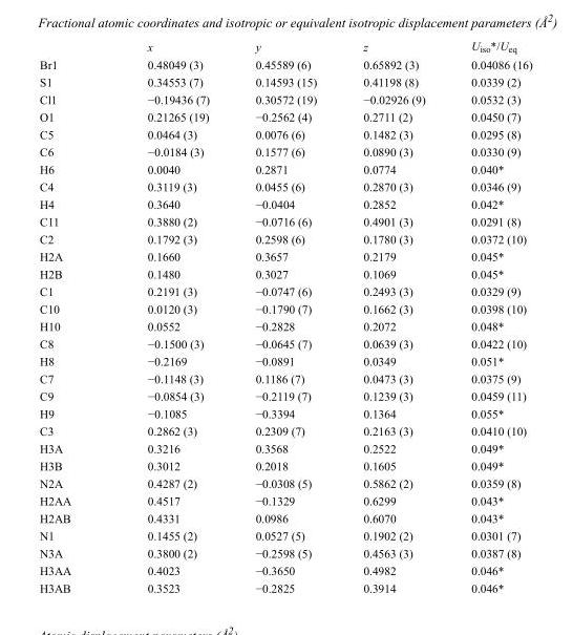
<table><thead><tr><td></td><td>x</td><td>y</td><td>z</td><td>U<sub>iso</sub>*/U<sub>eq</sub></td></tr></thead><tbody><tr><td>Br1</td><td>0.48049 (3)</td><td>0.45589 (6)</td><td>0.65892 (3)</td><td>0.04086 (16)</td></tr><tr><td>S1</td><td>0.34553 (7)</td><td>0.14593 (15)</td><td>0.41198 (8)</td><td>0.0339 (2)</td></tr><tr><td>Cl1</td><td>−0.19436 (7)</td><td>0.30572 (19)</td><td>−0.02926 (9)</td><td>0.0532 (3)</td></tr><tr><td>O1</td><td>0.21265 (19)</td><td>−0.2562 (4)</td><td>0.2711 (2)</td><td>0.0450 (7)</td></tr><tr><td>C5</td><td>0.0464 (3)</td><td>0.0076 (6)</td><td>0.1482 (3)</td><td>0.0295 (8)</td></tr><tr><td>C6</td><td>−0.0184 (3)</td><td>0.1577 (6)</td><td>0.0890 (3)</td><td>0.0330 (9)</td></tr><tr><td>H6</td><td>0.0040</td><td>0.2871</td><td>0.0774</td><td>0.040*</td></tr><tr><td>C4</td><td>0.3119 (3)</td><td>0.0455 (6)</td><td>0.2870 (3)</td><td>0.0346 (9)</td></tr><tr><td>H4</td><td>0.3640</td><td>−0.0404</td><td>0.2852</td><td>0.042*</td></tr><tr><td>C11</td><td>0.3880 (2)</td><td>−0.0716 (6)</td><td>0.4901 (3)</td><td>0.0291 (8)</td></tr><tr><td>C2</td><td>0.1792 (3)</td><td>0.2598 (6)</td><td>0.1780 (3)</td><td>0.0372 (10)</td></tr><tr><td>H2A</td><td>0.1660</td><td>0.3657</td><td>0.2179</td><td>0.045*</td></tr><tr><td>H2B</td><td>0.1480</td><td>0.3027</td><td>0.1069</td><td>0.045*</td></tr><tr><td>C1</td><td>0.2191 (3)</td><td>−0.0747 (6)</td><td>0.2493 (3)</td><td>0.0329 (9)</td></tr><tr><td>C10</td><td>0.0120 (3)</td><td>−0.1790 (7)</td><td>0.1662 (3)</td><td>0.0398 (10)</td></tr><tr><td>H10</td><td>0.0552</td><td>−0.2828</td><td>0.2072</td><td>0.048*</td></tr><tr><td>C8</td><td>−0.1500 (3)</td><td>−0.0645 (7)</td><td>0.0639 (3)</td><td>0.0422 (10)</td></tr><tr><td>H8</td><td>−0.2169</td><td>−0.0891</td><td>0.0349</td><td>0.051*</td></tr><tr><td>C7</td><td>−0.1148 (3)</td><td>0.1186 (7)</td><td>0.0473 (3)</td><td>0.0375 (9)</td></tr><tr><td>C9</td><td>−0.0854 (3)</td><td>−0.2119 (7)</td><td>0.1239 (3)</td><td>0.0459 (11)</td></tr><tr><td>H9</td><td>−0.1085</td><td>−0.3394</td><td>0.1364</td><td>0.055*</td></tr><tr><td>C3</td><td>0.2862 (3)</td><td>0.2309 (7)</td><td>0.2163 (3)</td><td>0.0410 (10)</td></tr><tr><td>H3A</td><td>0.3216</td><td>0.3568</td><td>0.2522</td><td>0.049*</td></tr><tr><td>H3B</td><td>0.3012</td><td>0.2018</td><td>0.1605</td><td>0.049*</td></tr><tr><td>N2A</td><td>0.4287 (2)</td><td>−0.0308 (5)</td><td>0.5862 (2)</td><td>0.0359 (8)</td></tr><tr><td>H2AA</td><td>0.4517</td><td>−0.1329</td><td>0.6299</td><td>0.043*</td></tr><tr><td>H2AB</td><td>0.4331</td><td>0.0986</td><td>0.6070</td><td>0.043*</td></tr><tr><td>N1</td><td>0.1455 (2)</td><td>0.0527 (5)</td><td>0.1902 (2)</td><td>0.0301 (7)</td></tr><tr><td>N3A</td><td>0.3800 (2)</td><td>−0.2598 (5)</td><td>0.4563 (3)</td><td>0.0387 (8)</td></tr><tr><td>H3AA</td><td>0.4023</td><td>−0.3650</td><td>0.4982</td><td>0.046*</td></tr><tr><td>H3AB</td><td>0.3523</td><td>−0.2825</td><td>0.3914</td><td>0.046*</td></tr></tbody></table>